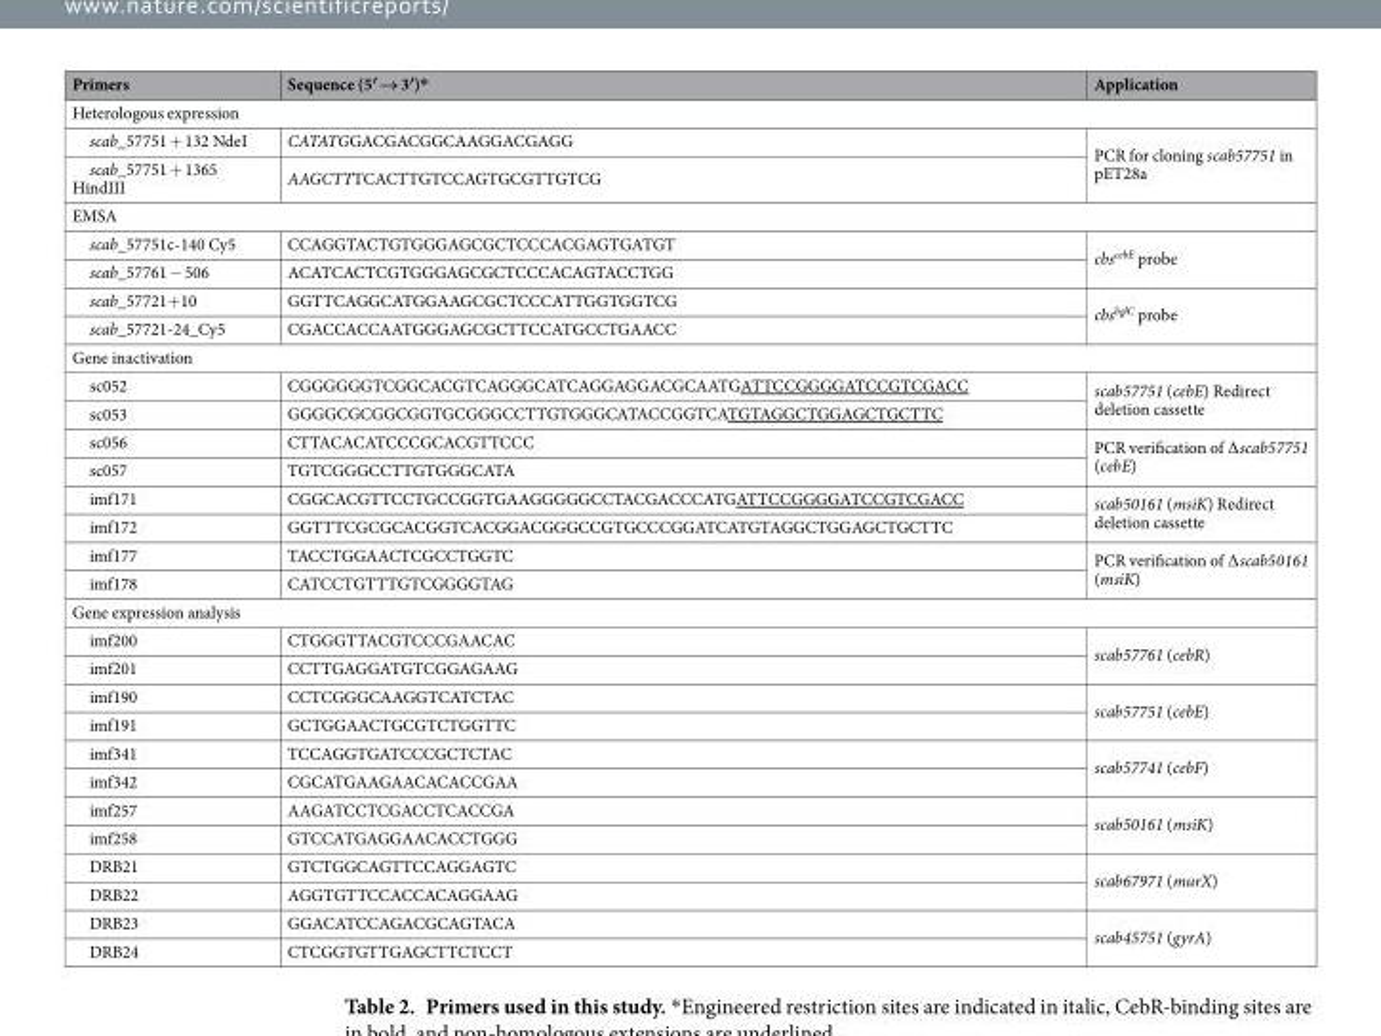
<table><thead><tr><td>Primers</td><td>Sequence (5′ → 3′)*</td><td>Application</td></tr></thead><tbody><tr><td colspan="3">Heterologous expression</td></tr><tr><td>scab_57751 + 132 NdeI</td><td>CATATGGACGACGGCAAGGACGAGG</td><td rowspan="2">PCR for cloning scab57751 in pET28a</td></tr><tr><td>scab_57751 + 1365 HindIII</td><td>AAGCTTTCACTTGTCCAGTGCGTTGTCG</td></tr><tr><td colspan="3">EMSA</td></tr><tr><td>scab_57751c-140 Cy5</td><td>CCAGGTACTGTGGGAGCGCTCCCACGAGTGATGT</td><td rowspan="2">cbs<sup>cebE</sup> probe</td></tr><tr><td>scab_57761 − 506</td><td>ACATCACTCGTGGGAGCGCTCCCACAGTACCTGG</td></tr><tr><td>scab_57721+10</td><td>GGTTCAGGCATGGAAGCGCTCCCATTGGTGGTCG</td><td rowspan="2">cbs<sup>bglC</sup> probe</td></tr><tr><td>scab_57721-24_Cy5</td><td>CGACCACCAATGGGAGCGCTTCCATGCCTGAACC</td></tr><tr><td colspan="3">Gene inactivation</td></tr><tr><td>sc052</td><td>CGGGGGGTCGGCACGTCAGGGCATCAGGAGGACGCAATGATTCCGGGGATCCGTCGACC</td><td rowspan="2">scab57751 (cebE) Redirect deletion cassette</td></tr><tr><td>sc053</td><td>GGGGCGCGGCGGTGCGGGCCTTGTGGGCATACCGGTCATGTAGGCTGGAGCTGCTTC</td></tr><tr><td>sc056</td><td>CTTACACATCCCGCACGTTCCC</td><td rowspan="2">PCR verification of ∆scab57751 (cebE)</td></tr><tr><td>sc057</td><td>TGTCGGGCCTTGTGGGCATA</td></tr><tr><td>imf171</td><td>CGGCACGTTCCTGCCGGTGAAGGGGGCCTACGACCCATGATTCCGGGGATCCGTCGACC</td><td rowspan="2">scab50161 (msiK) Redirect deletion cassette</td></tr><tr><td>imf172</td><td>GGTTTCGCGCACGGTCACGGACGGGCCGTGCCCGGATCATGTAGGCTGGAGCTGCTTC</td></tr><tr><td>imf177</td><td>TACCTGGAACTCGCCTGGTC</td><td rowspan="2">PCR verification of ∆scab50161 (msiK)</td></tr><tr><td>imf178</td><td>CATCCTGTTTGTCGGGGTAG</td></tr><tr><td colspan="3">Gene expression analysis</td></tr><tr><td>imf200</td><td>CTGGGTTACGTCCCGAACAC</td><td rowspan="2">scab57761 (cebR)</td></tr><tr><td>imf201</td><td>CCTTGAGGATGTCGGAGAAG</td></tr><tr><td>imf190</td><td>CCTCGGGCAAGGTCATCTAC</td><td rowspan="2">scab57751 (cebE)</td></tr><tr><td>imf191</td><td>GCTGGAACTGCGTCTGGTTC</td></tr><tr><td>imf341</td><td>TCCAGGTGATCCCGCTCTAC</td><td rowspan="2">scab57741 (cebF)</td></tr><tr><td>imf342</td><td>CGCATGAAGAACACACCGAA</td></tr><tr><td>imf257</td><td>AAGATCCTCGACCTCACCGA</td><td rowspan="2">scab50161 (msiK)</td></tr><tr><td>imf258</td><td>GTCCATGAGGAACACCTGGG</td></tr><tr><td>DRB21</td><td>GTCTGGCAGTTCCAGGAGTC</td><td rowspan="2">scab67971 (murX)</td></tr><tr><td>DRB22</td><td>AGGTGTTCCACCACAGGAAG</td></tr><tr><td>DRB23</td><td>GGACATCCAGACGCAGTACA</td><td rowspan="2">scab45751 (gyrA)</td></tr><tr><td>DRB24</td><td>CTCGGTGTTGAGCTTCTCCT</td></tr></tbody></table>